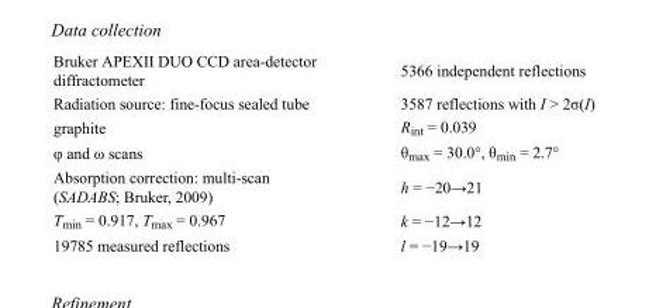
<table><tbody><tr><td>Bruker APEXII DUO CCD area-detector diffractometer</td><td>5366 independent reflections</td></tr><tr><td>Radiation source: fine-focus sealed tube</td><td>3587 reflections with I &gt; 2σ(I)</td></tr><tr><td>graphite</td><td>R<sub>int</sub> = 0.039</td></tr><tr><td>φ and ω scans</td><td>θ<sub>max</sub> = 30.0°, θ<sub>min</sub> = 2.7°</td></tr><tr><td>Absorption correction: multi-scan (SADABS; Bruker, 2009)</td><td>h = −20→21</td></tr><tr><td>T<sub>min</sub> = 0.917, T<sub>max</sub> = 0.967</td><td>k = −12→12</td></tr><tr><td>19785 measured reflections</td><td>l = −19→19</td></tr></tbody></table>